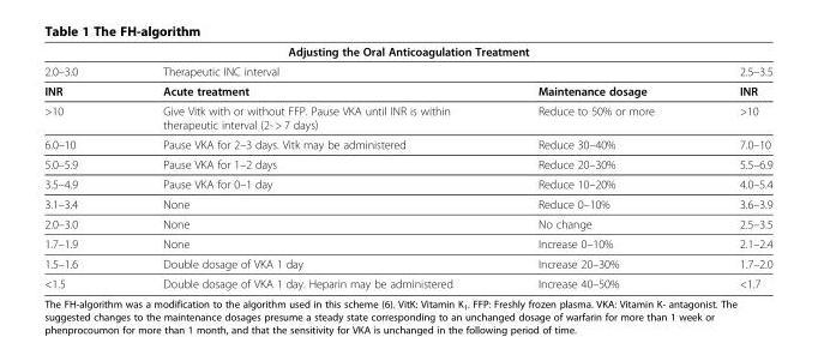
<table><thead><tr><td colspan="4">Adjusting the Oral Anticoagulation Treatment</td></tr><tr><td rowspan="2">2.0–3.0 INR</td><td colspan="2">Therapeutic INC interval</td><td rowspan="2">2.5–3.5 INR</td></tr><tr><td>Acute treatment</td><td>Maintenance dosage</td></tr></thead><tbody><tr><td>&gt;10</td><td>Give Vitk with or without FFP. Pause VKA until INR is within therapeutic interval (2- &gt; 7 days)</td><td>Reduce to 50% or more</td><td>&gt;10</td></tr><tr><td>6.0–10</td><td>Pause VKA for 2–3 days. Vitk may be administered</td><td>Reduce 30–40%</td><td>7.0–10</td></tr><tr><td>5.0–5.9</td><td>Pause VKA for 1–2 days</td><td>Reduce 20–30%</td><td>5.5–6.9</td></tr><tr><td>3.5–4.9</td><td>Pause VKA for 0–1 day</td><td>Reduce 10–20%</td><td>4.0–5.4</td></tr><tr><td>3.1–3.4</td><td>None</td><td>Reduce 0–10%</td><td>3.6–3.9</td></tr><tr><td>2.0–3.0</td><td>None</td><td>No change</td><td>2.5–3.5</td></tr><tr><td>1.7–1.9</td><td>None</td><td>Increase 0–10%</td><td>2.1–2.4</td></tr><tr><td>1.5–1.6</td><td>Double dosage of VKA 1 day</td><td>Increase 20–30%</td><td>1.7–2.0</td></tr><tr><td>&lt;1.5</td><td>Double dosage of VKA 1 day. Heparin may be administered</td><td>Increase 40–50%</td><td>&lt;1.7</td></tr></tbody></table>